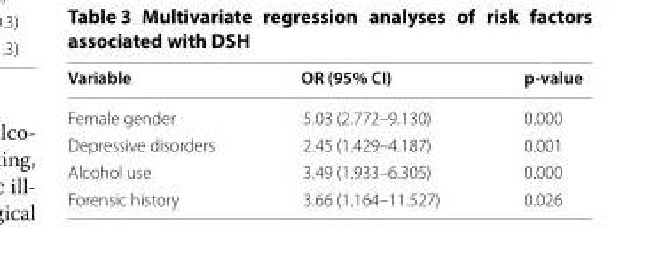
<table><thead><tr><td>Variable</td><td>OR (95% CI)</td><td>p-value</td></tr></thead><tbody><tr><td>Female gender</td><td>5.03 (2.772–9.130)</td><td>0.000</td></tr><tr><td>Depressive disorders</td><td>2.45 (1.429–4.187)</td><td>0.001</td></tr><tr><td>Alcohol use</td><td>3.49 (1.933–6.305)</td><td>0.000</td></tr><tr><td>Forensic history</td><td>3.66 (1.164–11.527)</td><td>0.026</td></tr></tbody></table>